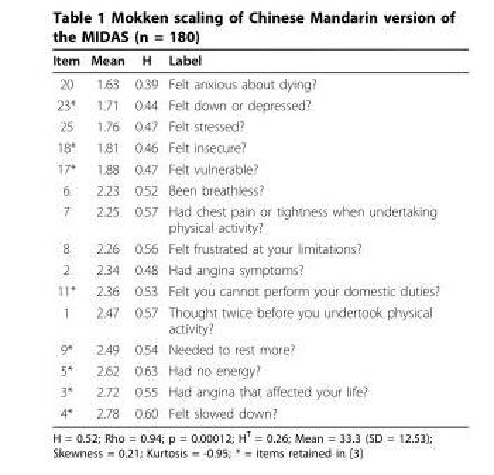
<table><thead><tr><td>Item</td><td>Mean</td><td>H</td><td>Label</td></tr></thead><tbody><tr><td>20</td><td>1.63</td><td>0.39</td><td>Felt anxious about dying?</td></tr><tr><td>23*</td><td>1.71</td><td>0.44</td><td>Felt down or depressed?</td></tr><tr><td>25</td><td>1.76</td><td>0.47</td><td>Felt stressed?</td></tr><tr><td>18*</td><td>1.81</td><td>0.46</td><td>Felt insecure?</td></tr><tr><td>17*</td><td>1.88</td><td>0.47</td><td>Felt vulnerable?</td></tr><tr><td>6</td><td>2.23</td><td>0.52</td><td>Been breathless?</td></tr><tr><td>7</td><td>2.25</td><td>0.57</td><td>Had chest pain or tightness when undertaking physical activity?</td></tr><tr><td>8</td><td>2.26</td><td>0.56</td><td>Felt frustrated at your limitations?</td></tr><tr><td>2</td><td>2.34</td><td>0.48</td><td>Had angina symptoms?</td></tr><tr><td>11*</td><td>2.36</td><td>0.53</td><td>Felt you cannot perform your domestic duties?</td></tr><tr><td>1</td><td>2.47</td><td>0.57</td><td>Thought twice before you undertook physical activity?</td></tr><tr><td>9*</td><td>2.49</td><td>0.54</td><td>Needed to rest more?</td></tr><tr><td>5*</td><td>2.62</td><td>0.63</td><td>Had no energy?</td></tr><tr><td>3*</td><td>2.72</td><td>0.55</td><td>Had angina that affected your life?</td></tr><tr><td>4*</td><td>2.78</td><td>0.60</td><td>Felt slowed down?</td></tr></tbody></table>